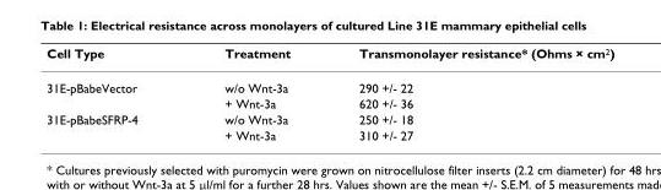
<table><thead><tr><td>Cell Type</td><td>Treatment</td><td>Transmonolayer resistance* (Ohms × cm<sup>2</sup>)</td></tr></thead><tbody><tr><td rowspan="2">31E-pBabeVector</td><td>w/o Wnt-3a</td><td>290 +/- 22</td></tr><tr><td>+ Wnt-3a</td><td>620 +/- 36</td></tr><tr><td rowspan="2">31E-pBabeSFRP-4</td><td>w/o Wnt-3a</td><td>250 +/- 18</td></tr><tr><td>+ Wnt-3a</td><td>310 +/- 27</td></tr></tbody></table>